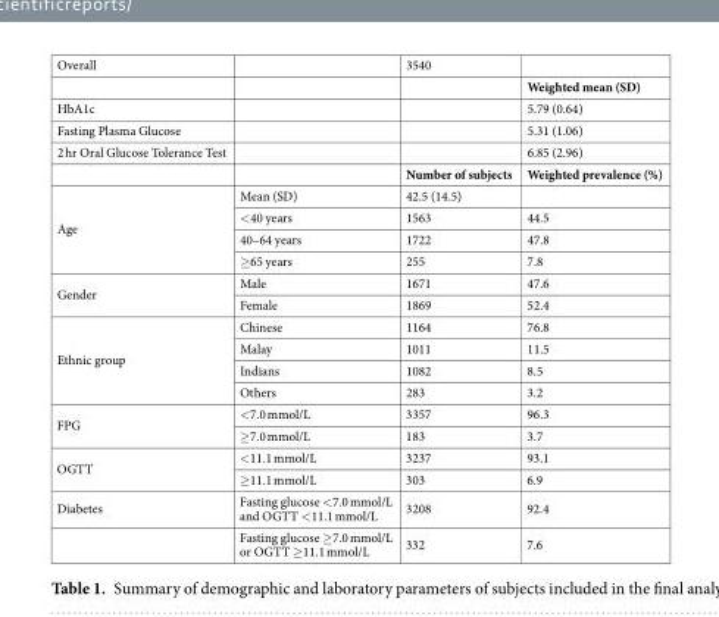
<table><tbody><tr><td rowspan="2">Overall</td><td></td><td>3540</td><td></td></tr><tr><td></td><td></td><td>Weighted mean (SD)</td></tr><tr><td>HbA1c</td><td></td><td></td><td>5.79 (0.64)</td></tr><tr><td>Fasting Plasma Glucose</td><td></td><td></td><td>5.31 (1.06)</td></tr><tr><td rowspan="2">2 hr Oral Glucose Tolerance Test</td><td></td><td></td><td>6.85 (2.96)</td></tr><tr><td></td><td>Number of subjects</td><td>Weighted prevalence (%)</td></tr><tr><td rowspan="4">Age</td><td>Mean (SD)</td><td>42.5 (14.5)</td><td></td></tr><tr><td>&lt;40 years</td><td>1563</td><td>44.5</td></tr><tr><td>40–64 years</td><td>1722</td><td>47.8</td></tr><tr><td>≥65 years</td><td>255</td><td>7.8</td></tr><tr><td rowspan="2">Gender</td><td>Male</td><td>1671</td><td>47.6</td></tr><tr><td>Female</td><td>1869</td><td>52.4</td></tr><tr><td rowspan="4">Ethnic group</td><td>Chinese</td><td>1164</td><td>76.8</td></tr><tr><td>Malay</td><td>1011</td><td>11.5</td></tr><tr><td>Indians</td><td>1082</td><td>8.5</td></tr><tr><td>Others</td><td>283</td><td>3.2</td></tr><tr><td rowspan="2">FPG</td><td>&lt;7.0 mmol/L</td><td>3357</td><td>96.3</td></tr><tr><td>≥7.0 mmol/L</td><td>183</td><td>3.7</td></tr><tr><td rowspan="2">OGTT</td><td>&lt;11.1 mmol/L</td><td>3237</td><td>93.1</td></tr><tr><td>≥11.1 mmol/L</td><td>303</td><td>6.9</td></tr><tr><td rowspan="2">Diabetes</td><td>Fasting glucose &lt;7.0 mmol/L and OGTT &lt;11.1 mmol/L</td><td>3208</td><td>92.4</td></tr><tr><td>Fasting glucose ≥7.0 mmol/L or OGTT ≥11.1 mmol/L</td><td>332</td><td>7.6</td></tr></tbody></table>